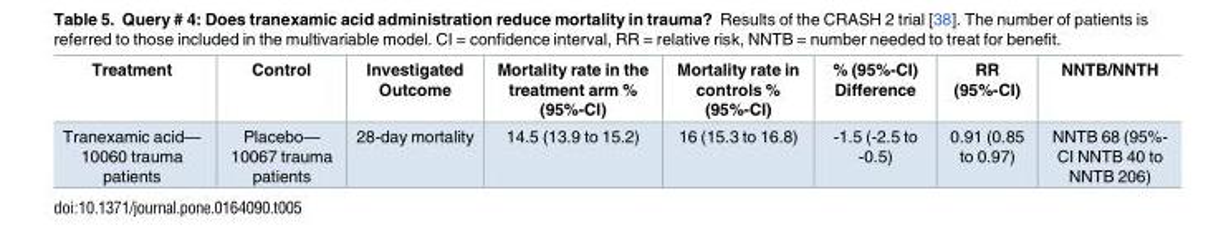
<table><thead><tr><td>Treatment</td><td>Control</td><td>Investigated Outcome</td><td>Mortality rate in the treatment arm % (95%-CI)</td><td>Mortality rate in controls % (95%-CI)</td><td>% (95%-CI) Difference</td><td>RR (95%-CI)</td><td>NNTB/NNTH</td></tr></thead><tbody><tr><td>Tranexamic acid— 10060 trauma patients</td><td>Placebo— 10067 trauma patients</td><td>28-day mortality</td><td>14.5 (13.9 to 15.2)</td><td>16 (15.3 to 16.8)</td><td>-1.5 (-2.5 to -0.5)</td><td>0.91 (0.85 to 0.97)</td><td>NNTB 68 (95%- CI NNTB 40 to NNTB 206)</td></tr></tbody></table>